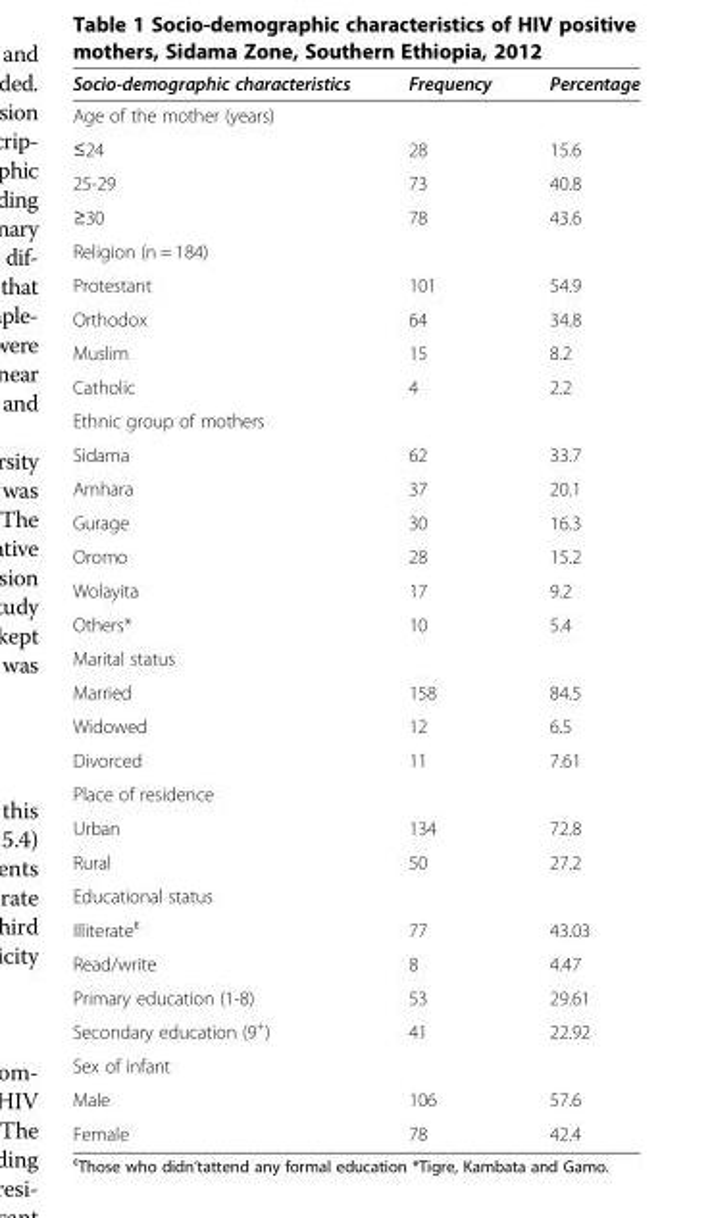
<table><thead><tr><td>Socio-demographic characteristics</td><td>Frequency</td><td>Percentage</td></tr></thead><tbody><tr><td colspan="3">Age of the mother (years)</td></tr><tr><td>≤24</td><td>28</td><td>15.6</td></tr><tr><td>25-29</td><td>73</td><td>40.8</td></tr><tr><td>≥30</td><td>78</td><td>43.6</td></tr><tr><td colspan="3">Religion (n = 184)</td></tr><tr><td>Protestant</td><td>101</td><td>54.9</td></tr><tr><td>Orthodox</td><td>64</td><td>34.8</td></tr><tr><td>Muslim</td><td>15</td><td>8.2</td></tr><tr><td>Catholic</td><td>4</td><td>2.2</td></tr><tr><td colspan="3">Ethnic group of mothers</td></tr><tr><td>Sidama</td><td>62</td><td>33.7</td></tr><tr><td>Amhara</td><td>37</td><td>20.1</td></tr><tr><td>Gurage</td><td>30</td><td>16.3</td></tr><tr><td>Oromo</td><td>28</td><td>15.2</td></tr><tr><td>Wolayita</td><td>17</td><td>9.2</td></tr><tr><td>Others*</td><td>10</td><td>5.4</td></tr><tr><td colspan="3">Marital status</td></tr><tr><td>Married</td><td>158</td><td>84.5</td></tr><tr><td>Widowed</td><td>12</td><td>6.5</td></tr><tr><td>Divorced</td><td>11</td><td>7.61</td></tr><tr><td colspan="3">Place of residence</td></tr><tr><td>Urban</td><td>134</td><td>72.8</td></tr><tr><td>Rural</td><td>50</td><td>27.2</td></tr><tr><td colspan="3">Educational status</td></tr><tr><td>Illiterate<sup>ɛ</sup></td><td>77</td><td>43.03</td></tr><tr><td>Read/write</td><td>8</td><td>4.47</td></tr><tr><td>Primary education (1-8)</td><td>53</td><td>29.61</td></tr><tr><td>Secondary education (9<sup>+</sup>)</td><td>41</td><td>22.92</td></tr><tr><td colspan="3">Sex of infant</td></tr><tr><td>Male</td><td>106</td><td>57.6</td></tr><tr><td>Female</td><td>78</td><td>42.4</td></tr></tbody></table>